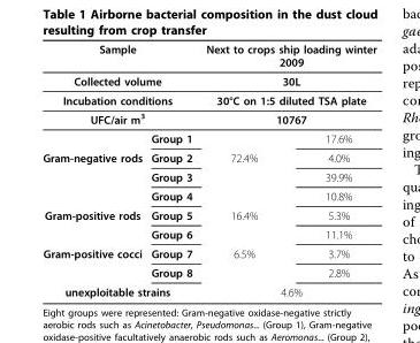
<table><thead><tr><td colspan="2">Sample</td><td colspan="2">Next to crops ship loading winter 2009</td></tr></thead><tbody><tr><td colspan="2">Collected volume</td><td colspan="2">30L</td></tr><tr><td colspan="2">Incubation conditions</td><td colspan="2">30°C on 1:5 diluted TSA plate</td></tr><tr><td colspan="2">UFC/air m<sup>3</sup></td><td colspan="2">10767</td></tr><tr><td></td><td>Group 1</td><td></td><td>17.6%</td></tr><tr><td rowspan="3">Gram-negative rods</td><td>Group 2</td><td>72.4%</td><td>4.0%</td></tr><tr><td>Group 3</td><td></td><td>39.9%</td></tr><tr><td>Group 4</td><td></td><td>10.8%</td></tr><tr><td rowspan="2">Gram-positive rods</td><td>Group 5</td><td>16.4%</td><td>5.3%</td></tr><tr><td>Group 6</td><td></td><td>11.1%</td></tr><tr><td rowspan="2">Gram-positive cocci</td><td>Group 7</td><td>6.5%</td><td>3.7%</td></tr><tr><td>Group 8</td><td></td><td>2.8%</td></tr><tr><td colspan="2">unexploitable strains</td><td colspan="2">4.6%</td></tr></tbody></table>